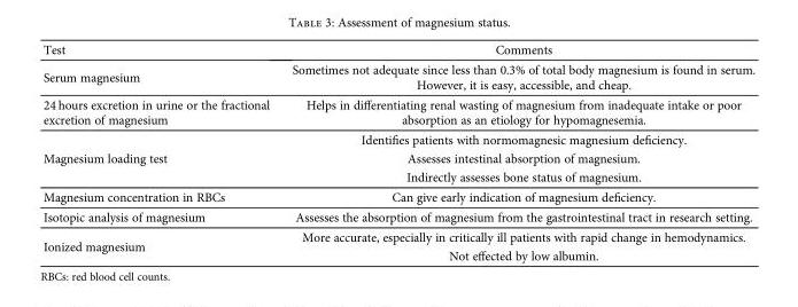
<table><thead><tr><td>Test</td><td>Comments</td></tr></thead><tbody><tr><td>Serum magnesium</td><td>Sometimes not adequate since less than 0.3% of total body magnesium is found in serum. However, it is easy, accessible, and cheap.</td></tr><tr><td>24 hours excretion in urine or the fractional excretion of magnesium</td><td>Helps in differentiating renal wasting of magnesium from inadequate intake or poor absorption as an etiology for hypomagnesemia.</td></tr><tr><td rowspan="3">Magnesium loading test</td><td>Identifies patients with normomagnesic magnesium deficiency.</td></tr><tr><td>Assesses intestinal absorption of magnesium.</td></tr><tr><td>Indirectly assesses bone status of magnesium.</td></tr><tr><td>Magnesium concentration in RBCs</td><td>Can give early indication of magnesium deficiency.</td></tr><tr><td>Isotopic analysis of magnesium</td><td>Assesses the absorption of magnesium from the gastrointestinal tract in research setting.</td></tr><tr><td rowspan="2">Ionized magnesium</td><td>More accurate, especially in critically ill patients with rapid change in hemodynamics.</td></tr><tr><td>Not effected by low albumin.</td></tr></tbody></table>